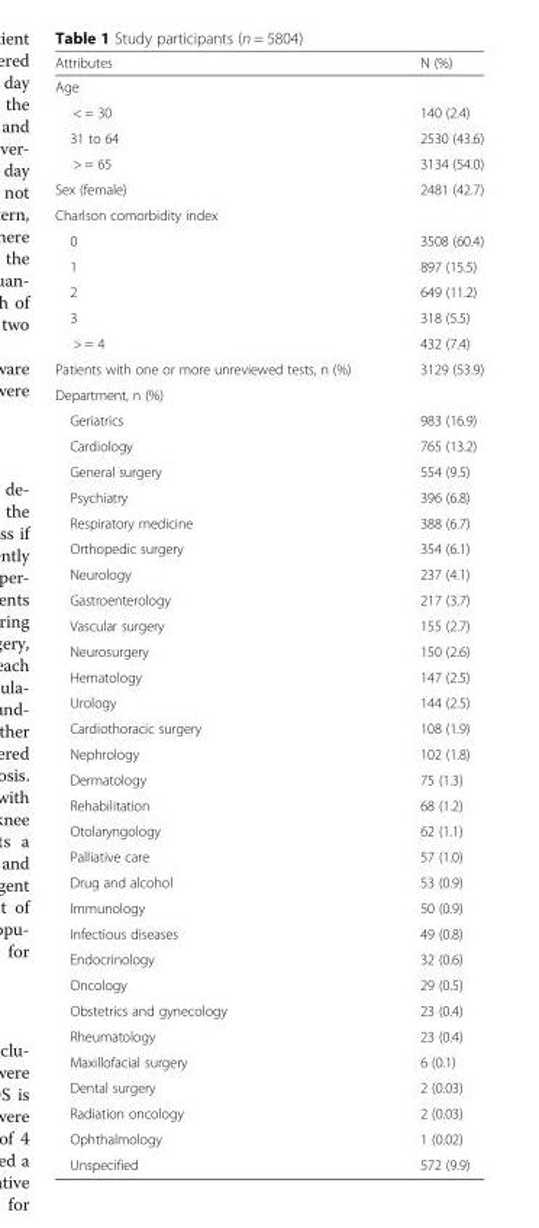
<table><thead><tr><td>Attributes</td><td>N (%)</td></tr></thead><tbody><tr><td colspan="2">Age</td></tr><tr><td>&lt; = 30</td><td>140 (2.4)</td></tr><tr><td>31 to 64</td><td>2530 (43.6)</td></tr><tr><td>&gt; = 65</td><td>3134 (54.0)</td></tr><tr><td>Sex (female)</td><td>2481 (42.7)</td></tr><tr><td colspan="2">Charlson comorbidity index</td></tr><tr><td>0</td><td>3508 (60.4)</td></tr><tr><td>1</td><td>897 (15.5)</td></tr><tr><td>2</td><td>649 (11.2)</td></tr><tr><td>3</td><td>318 (5.5)</td></tr><tr><td>&gt; = 4</td><td>432 (7.4)</td></tr><tr><td>Patients with one or more unreviewed tests, n (%)</td><td>3129 (53.9)</td></tr><tr><td colspan="2">Department, n (%)</td></tr><tr><td>Geriatrics</td><td>983 (16.9)</td></tr><tr><td>Cardiology</td><td>765 (13.2)</td></tr><tr><td>General surgery</td><td>554 (9.5)</td></tr><tr><td>Psychiatry</td><td>396 (6.8)</td></tr><tr><td>Respiratory medicine</td><td>388 (6.7)</td></tr><tr><td>Orthopedic surgery</td><td>354 (6.1)</td></tr><tr><td>Neurology</td><td>237 (4.1)</td></tr><tr><td>Gastroenterology</td><td>217 (3.7)</td></tr><tr><td>Vascular surgery</td><td>155 (2.7)</td></tr><tr><td>Neurosurgery</td><td>150 (2.6)</td></tr><tr><td>Hematology</td><td>147 (2.5)</td></tr><tr><td>Urology</td><td>144 (2.5)</td></tr><tr><td>Cardiothoracic surgery</td><td>108 (1.9)</td></tr><tr><td>Nephrology</td><td>102 (1.8)</td></tr><tr><td>Dermatology</td><td>75 (1.3)</td></tr><tr><td>Rehabilitation</td><td>68 (1.2)</td></tr><tr><td>Otolaryngology</td><td>62 (1.1)</td></tr><tr><td>Palliative care</td><td>57 (1.0)</td></tr><tr><td>Drug and alcohol</td><td>53 (0.9)</td></tr><tr><td>Immunology</td><td>50 (0.9)</td></tr><tr><td>Infectious diseases</td><td>49 (0.8)</td></tr><tr><td>Endocrinology</td><td>32 (0.6)</td></tr><tr><td>Oncology</td><td>29 (0.5)</td></tr><tr><td>Obstetrics and gynecology</td><td>23 (0.4)</td></tr><tr><td>Rheumatology</td><td>23 (0.4)</td></tr><tr><td>Maxillofacial surgery</td><td>6 (0.1)</td></tr><tr><td>Dental surgery</td><td>2 (0.03)</td></tr><tr><td>Radiation oncology</td><td>2 (0.03)</td></tr><tr><td>Ophthalmology</td><td>1 (0.02)</td></tr><tr><td>Unspecified</td><td>572 (9.9)</td></tr></tbody></table>